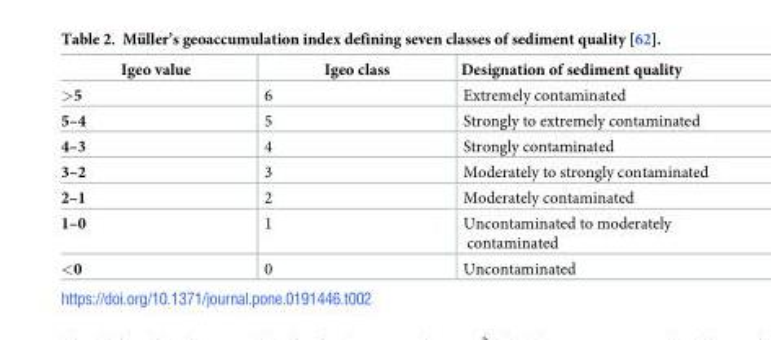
<table><thead><tr><td>Igeo value</td><td>Igeo class</td><td>Designation of sediment quality</td></tr></thead><tbody><tr><td>&gt;5</td><td>6</td><td>Extremely contaminated</td></tr><tr><td>5–4</td><td>5</td><td>Strongly to extremely contaminated</td></tr><tr><td>4–3</td><td>4</td><td>Strongly contaminated</td></tr><tr><td>3–2</td><td>3</td><td>Moderately to strongly contaminated</td></tr><tr><td>2–1</td><td>2</td><td>Moderately contaminated</td></tr><tr><td>1–0</td><td>1</td><td>Uncontaminated to moderately contaminated</td></tr><tr><td>&lt;0</td><td>0</td><td>Uncontaminated</td></tr></tbody></table>